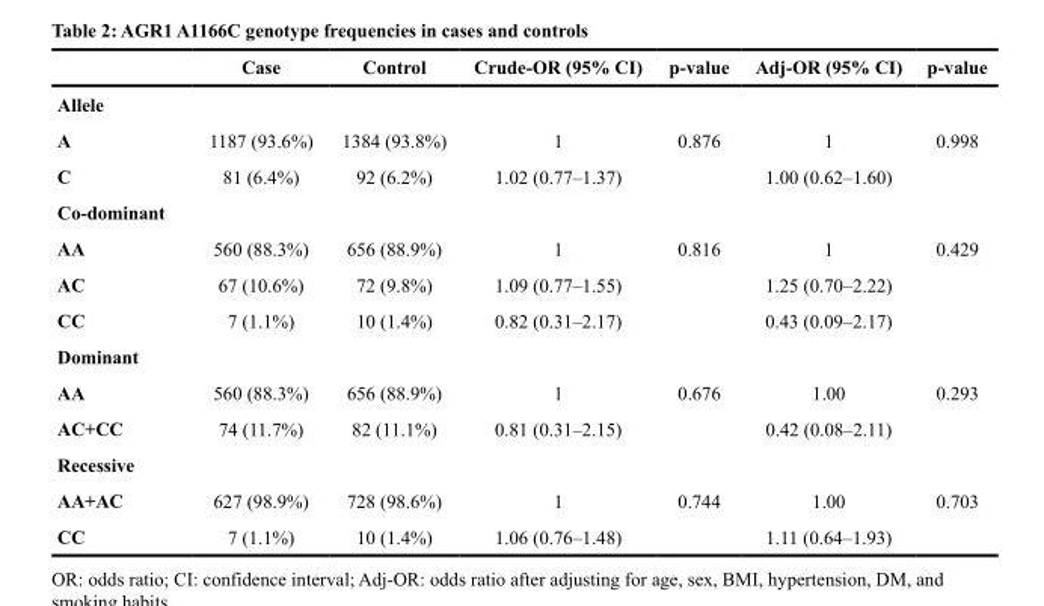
<table><thead><tr><td></td><td>Case</td><td>Control</td><td>Crude-OR (95% CI)</td><td>p-value</td><td>Adj-OR (95% CI)</td><td>p-value</td></tr></thead><tbody><tr><td colspan="7">Allele</td></tr><tr><td>A</td><td>1187 (93.6%)</td><td>1384 (93.8%)</td><td>1</td><td>0.876</td><td>1</td><td>0.998</td></tr><tr><td>C</td><td>81 (6.4%)</td><td>92 (6.2%)</td><td>1.02 (0.77–1.37)</td><td></td><td>1.00 (0.62–1.60)</td><td></td></tr><tr><td colspan="7">Co-dominant</td></tr><tr><td>AA</td><td>560 (88.3%)</td><td>656 (88.9%)</td><td>1</td><td>0.816</td><td>1</td><td>0.429</td></tr><tr><td>AC</td><td>67 (10.6%)</td><td>72 (9.8%)</td><td>1.09 (0.77–1.55)</td><td></td><td>1.25 (0.70–2.22)</td><td></td></tr><tr><td>CC</td><td>7 (1.1%)</td><td>10 (1.4%)</td><td>0.82 (0.31–2.17)</td><td></td><td>0.43 (0.09–2.17)</td><td></td></tr><tr><td colspan="7">Dominant</td></tr><tr><td>AA</td><td>560 (88.3%)</td><td>656 (88.9%)</td><td>1</td><td>0.676</td><td>1.00</td><td>0.293</td></tr><tr><td>AC+CC</td><td>74 (11.7%)</td><td>82 (11.1%)</td><td>0.81 (0.31–2.15)</td><td></td><td>0.42 (0.08–2.11)</td><td></td></tr><tr><td colspan="7">Recessive</td></tr><tr><td>AA+AC</td><td>627 (98.9%)</td><td>728 (98.6%)</td><td>1</td><td>0.744</td><td>1.00</td><td>0.703</td></tr><tr><td>CC</td><td>7 (1.1%)</td><td>10 (1.4%)</td><td>1.06 (0.76–1.48)</td><td></td><td>1.11 (0.64–1.93)</td><td></td></tr></tbody></table>